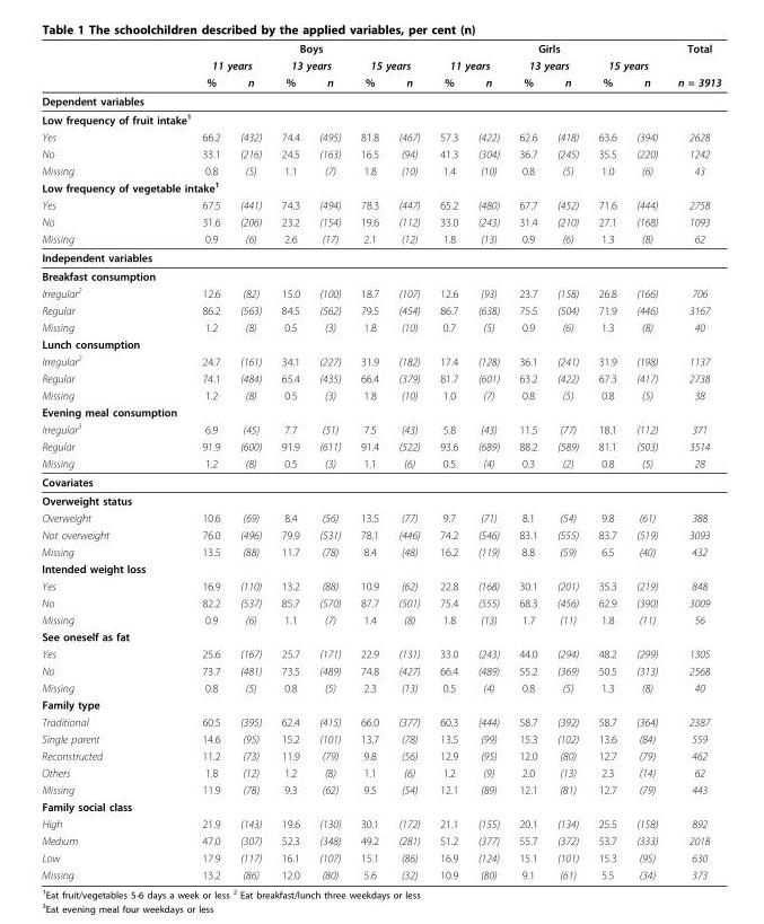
<table><thead><tr><td rowspan="3"></td><td colspan="6">Boys</td><td colspan="6">Girls</td><td rowspan="3">Total n = 3913</td></tr><tr><td colspan="2">11 years</td><td colspan="2">13 years</td><td colspan="2">15 years</td><td colspan="2">11 years</td><td colspan="2">13 years</td><td colspan="2">15 years</td></tr><tr><td>%</td><td>n</td><td>%</td><td>n</td><td>%</td><td>n</td><td>%</td><td>n</td><td>%</td><td>n</td><td>%</td><td>n</td></tr></thead><tbody><tr><td colspan="14">Dependent variables</td></tr><tr><td colspan="14">Low frequency of fruit intake<sup>1</sup></td></tr><tr><td>Yes</td><td>66.2</td><td>(432)</td><td>74.4</td><td>(495)</td><td>81.8</td><td>(467)</td><td>57.3</td><td>(422)</td><td>62.6</td><td>(418)</td><td>63.6</td><td>(394)</td><td>2628</td></tr><tr><td>No</td><td>33.1</td><td>(216)</td><td>24.5</td><td>(163)</td><td>16.5</td><td>(94)</td><td>41.3</td><td>(304)</td><td>36.7</td><td>(245)</td><td>35.5</td><td>(220)</td><td>1242</td></tr><tr><td>Missing</td><td>0.8</td><td>(5)</td><td>1.1</td><td>(7)</td><td>1.8</td><td>(10)</td><td>1.4</td><td>(10)</td><td>0.8</td><td>(5)</td><td>1.0</td><td>(6)</td><td>43</td></tr><tr><td colspan="14">Low frequency of vegetable intake<sup>1</sup></td></tr><tr><td>Yes</td><td>67.5</td><td>(441)</td><td>74.3</td><td>(494)</td><td>78.3</td><td>(447)</td><td>65.2</td><td>(480)</td><td>67.7</td><td>(452)</td><td>71.6</td><td>(444)</td><td>2758</td></tr><tr><td>No</td><td>31.6</td><td>(206)</td><td>23.2</td><td>(154)</td><td>19.6</td><td>(112)</td><td>33.0</td><td>(243)</td><td>31.4</td><td>(210)</td><td>27.1</td><td>(168)</td><td>1093</td></tr><tr><td>Missing</td><td>0.9</td><td>(6)</td><td>2.6</td><td>(17)</td><td>2.1</td><td>(12)</td><td>1.8</td><td>(13)</td><td>0.9</td><td>(6)</td><td>1.3</td><td>(8)</td><td>62</td></tr><tr><td colspan="14">Independent variables</td></tr><tr><td colspan="14">Breakfast consumption</td></tr><tr><td>Irregular<sup>2</sup></td><td>12.6</td><td>(82)</td><td>15.0</td><td>(100)</td><td>18.7</td><td>(107)</td><td>12.6</td><td>(93)</td><td>23.7</td><td>(158)</td><td>26.8</td><td>(166)</td><td>706</td></tr><tr><td>Regular</td><td>86.2</td><td>(563)</td><td>84.5</td><td>(562)</td><td>79.5</td><td>(454)</td><td>86.7</td><td>(638)</td><td>75.5</td><td>(504)</td><td>71.9</td><td>(446)</td><td>3167</td></tr><tr><td>Missing</td><td>1.2</td><td>(8)</td><td>0.5</td><td>(3)</td><td>1.8</td><td>(10)</td><td>0.7</td><td>(5)</td><td>0.9</td><td>(6)</td><td>1.3</td><td>(8)</td><td>40</td></tr><tr><td colspan="14">Lunch consumption</td></tr><tr><td>Irregular<sup>2</sup></td><td>24.7</td><td>(161)</td><td>34.1</td><td>(227)</td><td>31.9</td><td>(182)</td><td>17.4</td><td>(128)</td><td>36.1</td><td>(241)</td><td>31.9</td><td>(198)</td><td>1137</td></tr><tr><td>Regular</td><td>74.1</td><td>(484)</td><td>65.4</td><td>(435)</td><td>66.4</td><td>(379)</td><td>81.7</td><td>(601)</td><td>63.2</td><td>(422)</td><td>67.3</td><td>(417)</td><td>2738</td></tr><tr><td>Missing</td><td>1.2</td><td>(8)</td><td>0.5</td><td>(3)</td><td>1.8</td><td>(10)</td><td>1.0</td><td>(7)</td><td>0.8</td><td>(5)</td><td>0.8</td><td>(5)</td><td>38</td></tr><tr><td colspan="14">Evening meal consumption</td></tr><tr><td>Irregular<sup>3</sup></td><td>6.9</td><td>(45)</td><td>7.7</td><td>(51)</td><td>7.5</td><td>(43)</td><td>5.8</td><td>(43)</td><td>11.5</td><td>(77)</td><td>18.1</td><td>(112)</td><td>371</td></tr><tr><td>Regular</td><td>91.9</td><td>(600)</td><td>91.9</td><td>(611)</td><td>91.4</td><td>(522)</td><td>93.6</td><td>(689)</td><td>88.2</td><td>(589)</td><td>81.1</td><td>(503)</td><td>3514</td></tr><tr><td>Missing</td><td>1.2</td><td>(8)</td><td>0.5</td><td>(3)</td><td>1.1</td><td>(6)</td><td>0.5</td><td>(4)</td><td>0.3</td><td>(2)</td><td>0.8</td><td>(5)</td><td>28</td></tr><tr><td colspan="14">Covariates</td></tr><tr><td colspan="14">Overweight status</td></tr><tr><td>Overweight</td><td>10.6</td><td>(69)</td><td>8.4</td><td>(56)</td><td>13.5</td><td>(77)</td><td>9.7</td><td>(71)</td><td>8.1</td><td>(54)</td><td>9.8</td><td>(61)</td><td>388</td></tr><tr><td>Not overweight</td><td>76.0</td><td>(496)</td><td>79.9</td><td>(531)</td><td>78.1</td><td>(446)</td><td>74.2</td><td>(546)</td><td>83.1</td><td>(555)</td><td>83.7</td><td>(519)</td><td>3093</td></tr><tr><td>Missing</td><td>13.5</td><td>(88)</td><td>11.7</td><td>(78)</td><td>8.4</td><td>(48)</td><td>16.2</td><td>(119)</td><td>8.8</td><td>(59)</td><td>6.5</td><td>(40)</td><td>432</td></tr><tr><td colspan="14">Intended weight loss</td></tr><tr><td>Yes</td><td>16.9</td><td>(110)</td><td>13.2</td><td>(88)</td><td>10.9</td><td>(62)</td><td>22.8</td><td>(168)</td><td>30.1</td><td>(201)</td><td>35.3</td><td>(219)</td><td>848</td></tr><tr><td>No</td><td>82.2</td><td>(537)</td><td>85.7</td><td>(570)</td><td>87.7</td><td>(501)</td><td>75.4</td><td>(555)</td><td>68.3</td><td>(456)</td><td>62.9</td><td>(390)</td><td>3009</td></tr><tr><td>Missing</td><td>0.9</td><td>(6)</td><td>1.1</td><td>(7)</td><td>1.4</td><td>(8)</td><td>1.8</td><td>(13)</td><td>1.7</td><td>(11)</td><td>1.8</td><td>(11)</td><td>56</td></tr><tr><td colspan="14">See oneself as fat</td></tr><tr><td>Yes</td><td>25.6</td><td>(167)</td><td>25.7</td><td>(171)</td><td>22.9</td><td>(131)</td><td>33.0</td><td>(243)</td><td>44.0</td><td>(294)</td><td>48.2</td><td>(299)</td><td>1305</td></tr><tr><td>No</td><td>73.7</td><td>(481)</td><td>73.5</td><td>(489)</td><td>74.8</td><td>(427)</td><td>66.4</td><td>(489)</td><td>55.2</td><td>(369)</td><td>50.5</td><td>(313)</td><td>2568</td></tr><tr><td>Missing</td><td>0.8</td><td>(5)</td><td>0.8</td><td>(5)</td><td>2.3</td><td>(13)</td><td>0.5</td><td>(4)</td><td>0.8</td><td>(5)</td><td>1.3</td><td>(8)</td><td>40</td></tr><tr><td colspan="14">Family type</td></tr><tr><td>Traditional</td><td>60.5</td><td>(395)</td><td>62.4</td><td>(415)</td><td>66.0</td><td>(377)</td><td>60.3</td><td>(444)</td><td>58.7</td><td>(392)</td><td>58.7</td><td>(364)</td><td>2387</td></tr><tr><td>Single parent</td><td>14.6</td><td>(95)</td><td>15.2</td><td>(101)</td><td>13.7</td><td>(78)</td><td>13.5</td><td>(99)</td><td>15.3</td><td>(102)</td><td>13.6</td><td>(84)</td><td>559</td></tr><tr><td>Reconstructed</td><td>11.2</td><td>(73)</td><td>11.9</td><td>(79)</td><td>9.8</td><td>(56)</td><td>12.9</td><td>(95)</td><td>12.0</td><td>(80)</td><td>12.7</td><td>(79)</td><td>462</td></tr><tr><td>Others</td><td>1.8</td><td>(12)</td><td>1.2</td><td>(8)</td><td>1.1</td><td>(6)</td><td>1.2</td><td>(9)</td><td>2.0</td><td>(13)</td><td>2.3</td><td>(14)</td><td>62</td></tr><tr><td>Missing</td><td>11.9</td><td>(78)</td><td>9.3</td><td>(62)</td><td>9.5</td><td>(54)</td><td>12.1</td><td>(89)</td><td>12.1</td><td>(81)</td><td>12.7</td><td>(79)</td><td>443</td></tr><tr><td colspan="14">Family social class</td></tr><tr><td>High</td><td>21.9</td><td>(143)</td><td>19.6</td><td>(130)</td><td>30.1</td><td>(172)</td><td>21.1</td><td>(155)</td><td>20.1</td><td>(134)</td><td>25.5</td><td>(158)</td><td>892</td></tr><tr><td>Medium</td><td>47.0</td><td>(307)</td><td>52.3</td><td>(348)</td><td>49.2</td><td>(281)</td><td>51.2</td><td>(377)</td><td>55.7</td><td>(372)</td><td>53.7</td><td>(333)</td><td>2018</td></tr><tr><td>Low</td><td>17.9</td><td>(117)</td><td>16.1</td><td>(107)</td><td>15.1</td><td>(86)</td><td>16.9</td><td>(124)</td><td>15.1</td><td>(101)</td><td>15.3</td><td>(95)</td><td>630</td></tr><tr><td>Missing</td><td>13.2</td><td>(86)</td><td>12.0</td><td>(80)</td><td>5.6</td><td>(32)</td><td>10.9</td><td>(80)</td><td>9.1</td><td>(61)</td><td>5.5</td><td>(34)</td><td>373</td></tr></tbody></table>